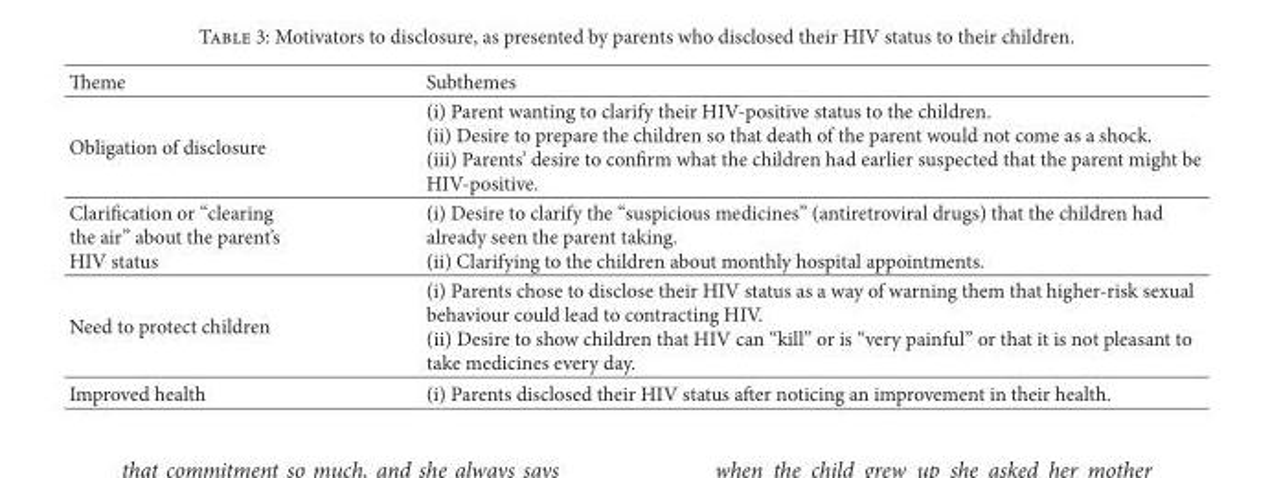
<table><thead><tr><td>Theme</td><td>Subthemes</td></tr></thead><tbody><tr><td>Obligation of disclosure</td><td>(i) Parent wanting to clarify their HIV-positive status to the children. (ii) Desire to prepare the children so that death of the parent would not come as a shock. (iii) Parents’ desire to confirm what the children had earlier suspected that the parent might be HIV-positive.</td></tr><tr><td>Clarification or “clearing the air” about the parent’s HIV status</td><td>(i) Desire to clarify the “suspicious medicines” (antiretroviral drugs) that the children had already seen the parent taking. (ii) Clarifying to the children about monthly hospital appointments.</td></tr><tr><td>Need to protect children</td><td>(i) Parents chose to disclose their HIV status as a way of warning them that higher-risk sexual behaviour could lead to contracting HIV. (ii) Desire to show children that HIV can “kill” or is “very painful” or that it is not pleasant to take medicines every day.</td></tr><tr><td>Improved health</td><td>(i) Parents disclosed their HIV status after noticing an improvement in their health.</td></tr></tbody></table>